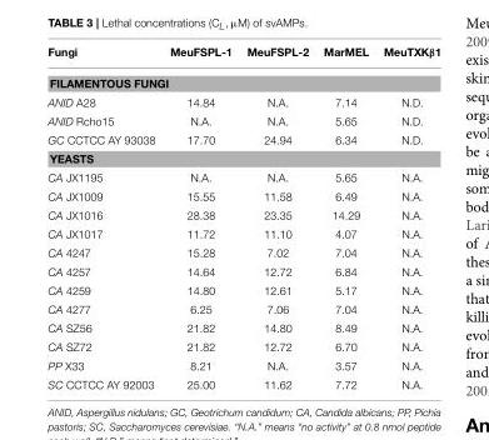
<table><thead><tr><td>Fungi</td><td>MeuFSPL-1</td><td>MeuFSPL-2</td><td>MarMEL</td><td>MeuTXKβ1</td></tr></thead><tbody><tr><td colspan="5">FILAMENTOUS FUNGI</td></tr><tr><td>ANID A28</td><td>14.84</td><td>N.A.</td><td>7.14</td><td>N.D.</td></tr><tr><td>ANID Rcho15</td><td>N.A.</td><td>N.A.</td><td>5.65</td><td>N.D.</td></tr><tr><td>GC CCTCC AY 93038</td><td>17.70</td><td>24.94</td><td>6.34</td><td>N.D.</td></tr><tr><td colspan="5">YEASTS</td></tr><tr><td>CA JX1195</td><td>N.A.</td><td>N.A.</td><td>5.65</td><td>N.A.</td></tr><tr><td>CA JX1009</td><td>15.55</td><td>11.58</td><td>6.49</td><td>N.A.</td></tr><tr><td>CA JX1016</td><td>28.38</td><td>23.35</td><td>14.29</td><td>N.A.</td></tr><tr><td>CA JX1017</td><td>11.72</td><td>11.10</td><td>4.07</td><td>N.A.</td></tr><tr><td>CA 4247</td><td>15.28</td><td>7.02</td><td>7.04</td><td>N.A.</td></tr><tr><td>CA 4257</td><td>14.64</td><td>12.72</td><td>6.84</td><td>N.A.</td></tr><tr><td>CA 4259</td><td>14.80</td><td>12.61</td><td>5.17</td><td>N.A.</td></tr><tr><td>CA 4277</td><td>6.25</td><td>7.06</td><td>7.04</td><td>N.A.</td></tr><tr><td>CA SZ56</td><td>21.82</td><td>14.80</td><td>8.49</td><td>N.A.</td></tr><tr><td>CA SZ72</td><td>21.82</td><td>12.72</td><td>6.70</td><td>N.A.</td></tr><tr><td>PP X33</td><td>8.21</td><td>N.A.</td><td>3.57</td><td>N.A.</td></tr><tr><td>SC CCTCC AY 92003</td><td>25.00</td><td>11.62</td><td>7.72</td><td>N.A.</td></tr></tbody></table>